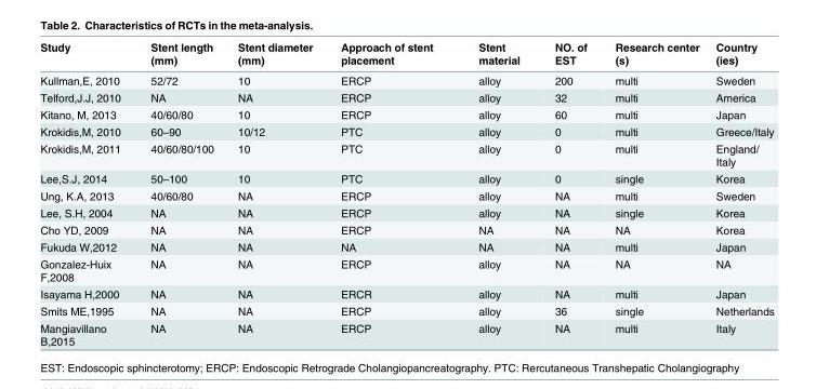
<table><thead><tr><td>Study</td><td>Stent length (mm)</td><td>Stent diameter (mm)</td><td>Approach of stent placement</td><td>Stent material</td><td>NO. of EST</td><td>Research center (s)</td><td>Country (ies)</td></tr></thead><tbody><tr><td>Kullman,E, 2010</td><td>52/72</td><td>10</td><td>ERCP</td><td>alloy</td><td>200</td><td>multi</td><td>Sweden</td></tr><tr><td>Telford,J.J, 2010</td><td>NA</td><td>NA</td><td>ERCP</td><td>alloy</td><td>32</td><td>multi</td><td>America</td></tr><tr><td>Kitano, M, 2013</td><td>40/60/80</td><td>10</td><td>ERCP</td><td>alloy</td><td>60</td><td>multi</td><td>Japan</td></tr><tr><td>Krokidis,M, 2010</td><td>60–90</td><td>10/12</td><td>PTC</td><td>alloy</td><td>0</td><td>multi</td><td>Greece/Italy</td></tr><tr><td>Krokidis,M, 2011</td><td>40/60/80/100</td><td>10</td><td>PTC</td><td>alloy</td><td>0</td><td>multi</td><td>England/ Italy</td></tr><tr><td>Lee,S.J, 2014</td><td>50–100</td><td>10</td><td>PTC</td><td>alloy</td><td>0</td><td>single</td><td>Korea</td></tr><tr><td>Ung, K.A, 2013</td><td>40/60/80</td><td>NA</td><td>ERCP</td><td>alloy</td><td>NA</td><td>multi</td><td>Sweden</td></tr><tr><td>Lee, S.H, 2004</td><td>NA</td><td>NA</td><td>ERCP</td><td>alloy</td><td>NA</td><td>single</td><td>Korea</td></tr><tr><td>Cho YD, 2009</td><td>NA</td><td>NA</td><td>ERCP</td><td>NA</td><td>NA</td><td>NA</td><td>Korea</td></tr><tr><td>Fukuda W,2012</td><td>NA</td><td>NA</td><td>NA</td><td>NA</td><td>NA</td><td>multi</td><td>Japan</td></tr><tr><td>Gonzalez-Huix F,2008</td><td>NA</td><td>NA</td><td>ERCP</td><td>alloy</td><td>NA</td><td>NA</td><td>NA</td></tr><tr><td>Isayama H,2000</td><td>NA</td><td>NA</td><td>ERCR</td><td>alloy</td><td>NA</td><td>multi</td><td>Japan</td></tr><tr><td>Smits ME,1995</td><td>NA</td><td>NA</td><td>ERCP</td><td>alloy</td><td>36</td><td>single</td><td>Netherlands</td></tr><tr><td>Mangiavillano B,2015</td><td>NA</td><td>NA</td><td>ERCP</td><td>alloy</td><td>NA</td><td>multi</td><td>Italy</td></tr></tbody></table>